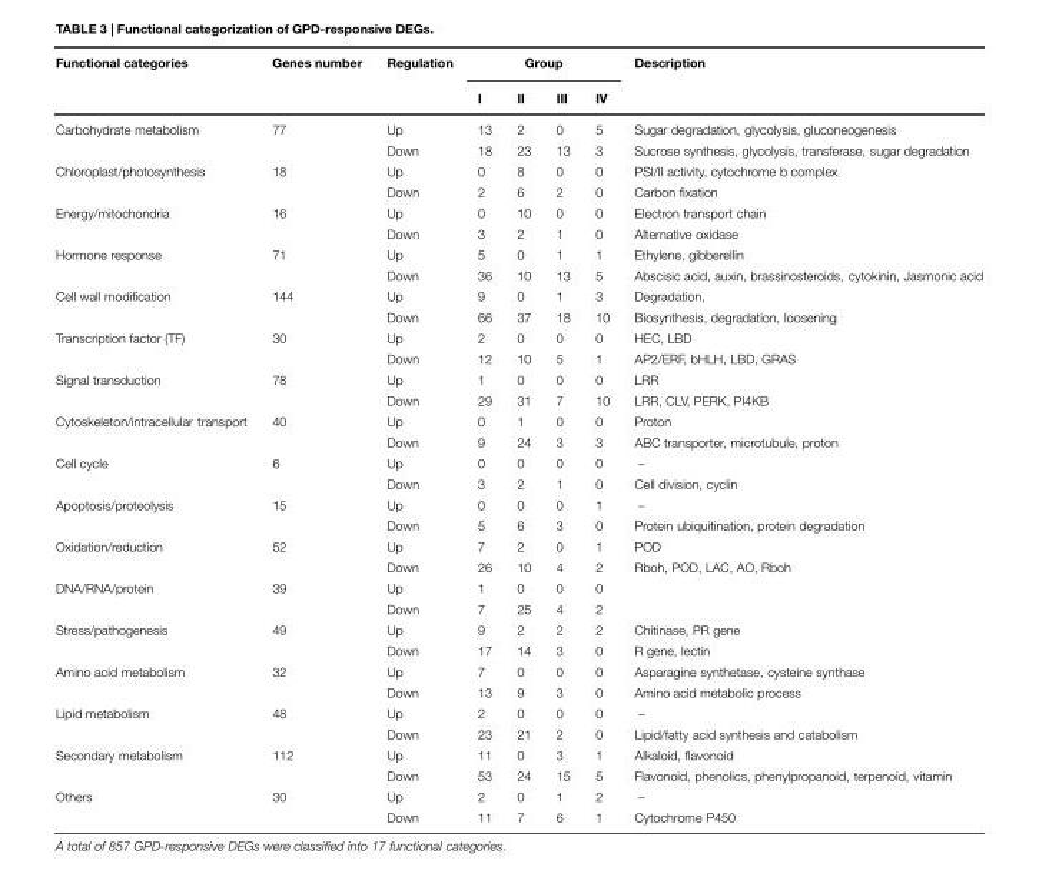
<table><thead><tr><td rowspan="2">Functional categories</td><td rowspan="2">Genes number</td><td rowspan="2">Regulation</td><td colspan="4">Group</td><td rowspan="2">Description</td></tr><tr><td>I</td><td>II</td><td>III</td><td>IV</td></tr></thead><tbody><tr><td rowspan="2">Carbohydrate metabolism</td><td>77</td><td>Up</td><td>13</td><td>2</td><td>0</td><td>5</td><td>Sugar degradation, glycolysis, gluconeogenesis</td></tr><tr><td></td><td>Down</td><td>18</td><td>23</td><td>13</td><td>3</td><td>Sucrose synthesis, glycolysis, transferase, sugar degradation</td></tr><tr><td rowspan="2">Chloroplast/photosynthesis</td><td>18</td><td>Up</td><td>0</td><td>8</td><td>0</td><td>0</td><td>PSI/II activity, cytochrome b complex</td></tr><tr><td></td><td>Down</td><td>2</td><td>6</td><td>2</td><td>0</td><td>Carbon fixation</td></tr><tr><td rowspan="2">Energy/mitochondria</td><td>16</td><td>Up</td><td>0</td><td>10</td><td>0</td><td>0</td><td>Electron transport chain</td></tr><tr><td></td><td>Down</td><td>3</td><td>2</td><td>1</td><td>0</td><td>Alternative oxidase</td></tr><tr><td rowspan="2">Hormone response</td><td>71</td><td>Up</td><td>5</td><td>0</td><td>1</td><td>1</td><td>Ethylene, gibberellin</td></tr><tr><td></td><td>Down</td><td>36</td><td>10</td><td>13</td><td>5</td><td>Abscisic acid, auxin, brassinosteroids, cytokinin, Jasmonic acid</td></tr><tr><td rowspan="2">Cell wall modification</td><td>144</td><td>Up</td><td>9</td><td>0</td><td>1</td><td>3</td><td>Degradation,</td></tr><tr><td></td><td>Down</td><td>66</td><td>37</td><td>18</td><td>10</td><td>Biosynthesis, degradation, loosening</td></tr><tr><td rowspan="2">Transcription factor (TF)</td><td>30</td><td>Up</td><td>2</td><td>0</td><td>0</td><td>0</td><td>HEC, LBD</td></tr><tr><td></td><td>Down</td><td>12</td><td>10</td><td>5</td><td>1</td><td>AP2/ERF, bHLH, LBD, GRAS</td></tr><tr><td rowspan="2">Signal transduction</td><td>78</td><td>Up</td><td>1</td><td>0</td><td>0</td><td>0</td><td>LRR</td></tr><tr><td></td><td>Down</td><td>29</td><td>31</td><td>7</td><td>10</td><td>LRR, CLV, PERK, PI4KB</td></tr><tr><td rowspan="2">Cytoskeleton/intracellular transport</td><td>40</td><td>Up</td><td>0</td><td>1</td><td>0</td><td>0</td><td>Proton</td></tr><tr><td></td><td>Down</td><td>9</td><td>24</td><td>3</td><td>3</td><td>ABC transporter, microtubule, proton</td></tr><tr><td rowspan="2">Cell cycle</td><td>6</td><td>Up</td><td>0</td><td>0</td><td>0</td><td>0</td><td>–</td></tr><tr><td></td><td>Down</td><td>3</td><td>2</td><td>1</td><td>0</td><td>Cell division, cyclin</td></tr><tr><td rowspan="2">Apoptosis/proteolysis</td><td>15</td><td>Up</td><td>0</td><td>0</td><td>0</td><td>1</td><td>–</td></tr><tr><td></td><td>Down</td><td>5</td><td>6</td><td>3</td><td>0</td><td>Protein ubiquitination, protein degradation</td></tr><tr><td rowspan="2">Oxidation/reduction</td><td>52</td><td>Up</td><td>7</td><td>2</td><td>0</td><td>1</td><td>POD</td></tr><tr><td></td><td>Down</td><td>26</td><td>10</td><td>4</td><td>2</td><td>Rboh, POD, LAC, AO, Rboh</td></tr><tr><td rowspan="2">DNA/RNA/protein</td><td>39</td><td>Up</td><td>1</td><td>0</td><td>0</td><td>0</td><td></td></tr><tr><td></td><td>Down</td><td>7</td><td>25</td><td>4</td><td>2</td><td></td></tr><tr><td rowspan="2">Stress/pathogenesis</td><td>49</td><td>Up</td><td>9</td><td>2</td><td>2</td><td>2</td><td>Chitinase, PR gene</td></tr><tr><td></td><td>Down</td><td>17</td><td>14</td><td>3</td><td>0</td><td>R gene, lectin</td></tr><tr><td rowspan="2">Amino acid metabolism</td><td>32</td><td>Up</td><td>7</td><td>0</td><td>0</td><td>0</td><td>Asparagine synthetase, cysteine synthase</td></tr><tr><td></td><td>Down</td><td>13</td><td>9</td><td>3</td><td>0</td><td>Amino acid metabolic process</td></tr><tr><td rowspan="2">Lipid metabolism</td><td>48</td><td>Up</td><td>2</td><td>0</td><td>0</td><td>0</td><td>–</td></tr><tr><td></td><td>Down</td><td>23</td><td>21</td><td>2</td><td>0</td><td>Lipid/fatty acid synthesis and catabolism</td></tr><tr><td rowspan="2">Secondary metabolism</td><td>112</td><td>Up</td><td>11</td><td>0</td><td>3</td><td>1</td><td>Alkaloid, flavonoid</td></tr><tr><td></td><td>Down</td><td>53</td><td>24</td><td>15</td><td>5</td><td>Flavonoid, phenolics, phenylpropanoid, terpenoid, vitamin</td></tr><tr><td rowspan="2">Others</td><td>30</td><td>Up</td><td>2</td><td>0</td><td>1</td><td>2</td><td>–</td></tr><tr><td></td><td>Down</td><td>11</td><td>7</td><td>6</td><td>1</td><td>Cytochrome P450</td></tr></tbody></table>